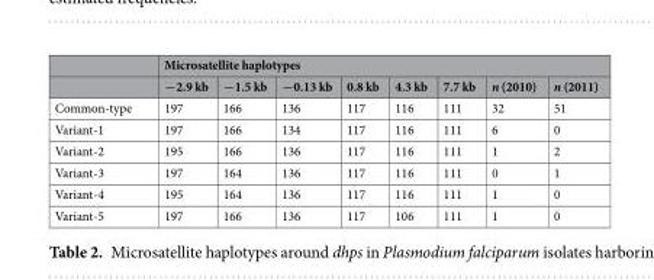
<table><thead><tr><td rowspan="2"></td><td colspan="8">Microsatellite haplotypes</td></tr><tr><td>−2.9 kb</td><td>−1.5 kb</td><td>−0.13 kb</td><td>0.8 kb</td><td>4.3 kb</td><td>7.7 kb</td><td>n (2010)</td><td>n (2011)</td></tr></thead><tbody><tr><td>Common-type</td><td>197</td><td>166</td><td>136</td><td>117</td><td>116</td><td>111</td><td>32</td><td>51</td></tr><tr><td>Variant-1</td><td>197</td><td>166</td><td>134</td><td>117</td><td>116</td><td>111</td><td>6</td><td>0</td></tr><tr><td>Variant-2</td><td>195</td><td>166</td><td>136</td><td>117</td><td>116</td><td>111</td><td>1</td><td>2</td></tr><tr><td>Variant-3</td><td>197</td><td>164</td><td>136</td><td>117</td><td>116</td><td>111</td><td>0</td><td>1</td></tr><tr><td>Variant-4</td><td>195</td><td>164</td><td>136</td><td>117</td><td>116</td><td>111</td><td>1</td><td>0</td></tr><tr><td>Variant-5</td><td>197</td><td>166</td><td>136</td><td>117</td><td>106</td><td>111</td><td>1</td><td>0</td></tr></tbody></table>